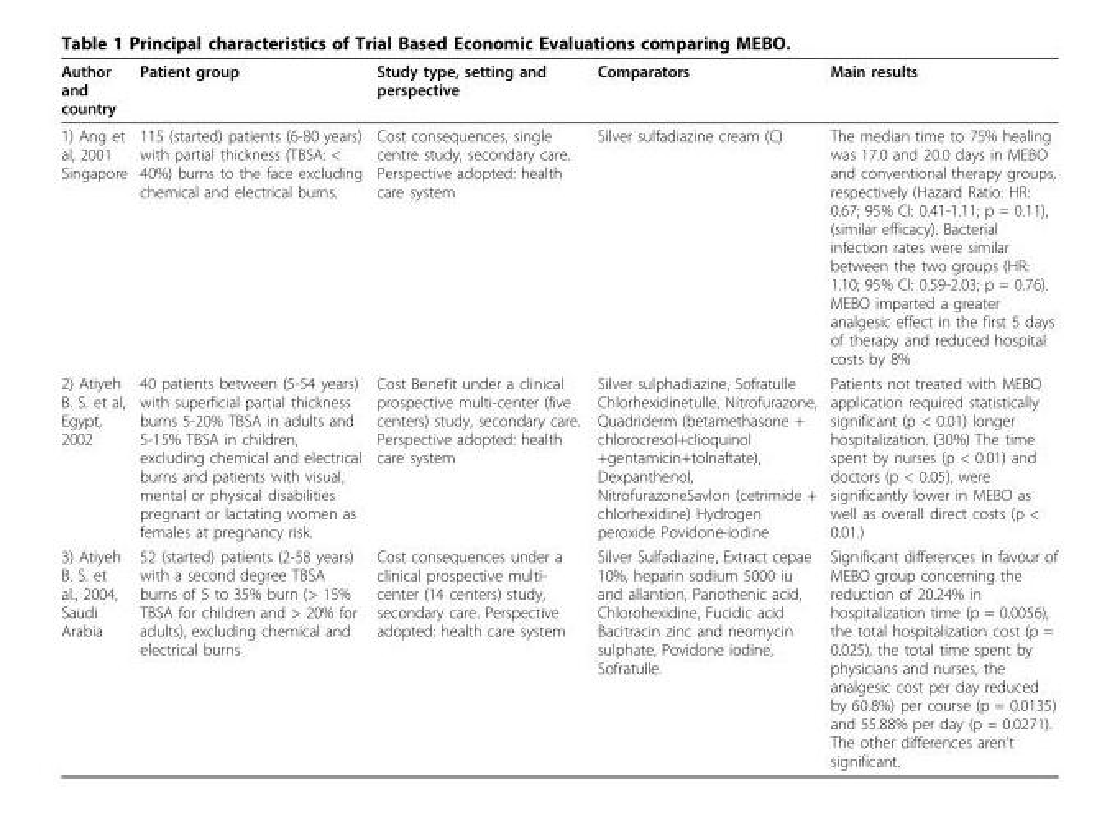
<table><thead><tr><td>Author and country</td><td>Patient group</td><td>Study type, setting and perspective</td><td>Comparators</td><td>Main results</td></tr></thead><tbody><tr><td>1) Ang et al, 2001 Singapore</td><td>115 (started) patients (6-80 years) with partial thickness (TBSA: &lt; 40%) burns to the face excluding chemical and electrical burns.</td><td>Cost consequences, single centre study, secondary care. Perspective adopted: health care system</td><td>Silver sulfadiazine cream (C)</td><td>The median time to 75% healing was 17.0 and 20.0 days in MEBO and conventional therapy groups, respectively (Hazard Ratio: HR: 0.67; 95% CI: 0.41-1.11; p = 0.11), (similar efficacy). Bacterial infection rates were similar between the two groups (HR: 1.10; 95% CI: 0.59-2.03; p = 0.76). MEBO imparted a greater analgesic effect in the first 5 days of therapy and reduced hospital costs by 8%</td></tr><tr><td>2) Atiyeh B. S. et al, Egypt, 2002</td><td>40 patients between (5-54 years) with superficial partial thickness burns 5-20% TBSA in adults and 5-15% TBSA in children, excluding chemical and electrical burns and patients with visual, mental or physical disabilities pregnant or lactating women as females at pregnancy risk.</td><td>Cost Benefit under a clinical prospective multi-center (five centers) study, secondary care. Perspective adopted: health care system</td><td>Silver sulphadiazine, Sofratulle Chlorhexidinetulle, Nitrofurazone, Quadriderm (betamethasone + chlorocresol+clioquinol +gentamicin+tolnaftate), Dexpanthenol, NitrofurazoneSavlon (cetrimide + chlorhexidine) Hydrogen peroxide Povidone-iodine</td><td>Patients not treated with MEBO application required statistically significant (p &lt; 0.01) longer hospitalization. (30%) The time spent by nurses (p &lt; 0.01) and doctors (p &lt; 0.05), were significantly lower in MEBO as well as overall direct costs (p &lt; 0.01.)</td></tr><tr><td>3) Atiyeh B. S. et al., 2004, Saudi Arabia</td><td>52 (started) patients (2-58 years) with a second degree TBSA burns of 5 to 35% burn (&gt; 15% TBSA for children and &gt; 20% for adults), excluding chemical and electrical burns</td><td>Cost consequences under a clinical prospective multi- center (14 centers) study, secondary care. Perspective adopted: health care system</td><td>Silver Sulfadiazine, Extract cepae 10%, heparin sodium 5000 iu and allantion, Panothenic acid, Chlorohexidine, Fucidic acid Bacitracin zinc and neomycin sulphate, Povidone iodine, Sofratulle.</td><td>Significant differences in favour of MEBO group concerning the reduction of 20.24% in hospitalization time (p = 0.0056), the total hospitalization cost (p = 0.025), the total time spent by physicians and nurses, the analgesic cost per day reduced by 60.8%) per course (p = 0.0135) and 55.88% per day (p = 0.0271). The other differences aren’t significant.</td></tr></tbody></table>